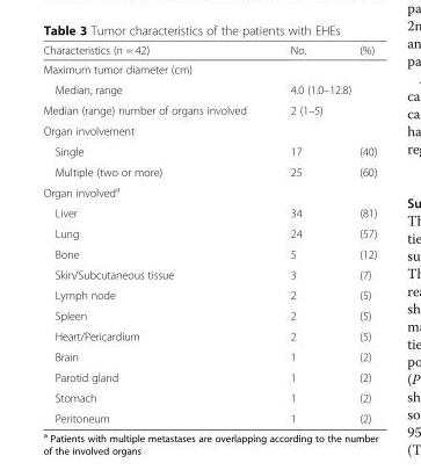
<table><thead><tr><td>Characteristics (n = 42)</td><td>No.</td><td>(%)</td></tr></thead><tbody><tr><td colspan="3">Maximum tumor diameter (cm)</td></tr><tr><td>Median, range</td><td colspan="2">4.0 (1.0–12.8)</td></tr><tr><td>Median (range) number of organs involved</td><td colspan="2">2 (1–5)</td></tr><tr><td colspan="3">Organ involvement</td></tr><tr><td>Single</td><td>17</td><td>(40)</td></tr><tr><td>Multiple (two or more)</td><td>25</td><td>(60)</td></tr><tr><td colspan="3">Organ involved<sup>a</sup></td></tr><tr><td>Liver</td><td>34</td><td>(81)</td></tr><tr><td>Lung</td><td>24</td><td>(57)</td></tr><tr><td>Bone</td><td>5</td><td>(12)</td></tr><tr><td>Skin/Subcutaneous tissue</td><td>3</td><td>(7)</td></tr><tr><td>Lymph node</td><td>2</td><td>(5)</td></tr><tr><td>Spleen</td><td>2</td><td>(5)</td></tr><tr><td>Heart/Pericardium</td><td>2</td><td>(5)</td></tr><tr><td>Brain</td><td>1</td><td>(2)</td></tr><tr><td>Parotid gland</td><td>1</td><td>(2)</td></tr><tr><td>Stomach</td><td>1</td><td>(2)</td></tr><tr><td>Peritoneum</td><td>1</td><td>(2)</td></tr></tbody></table>